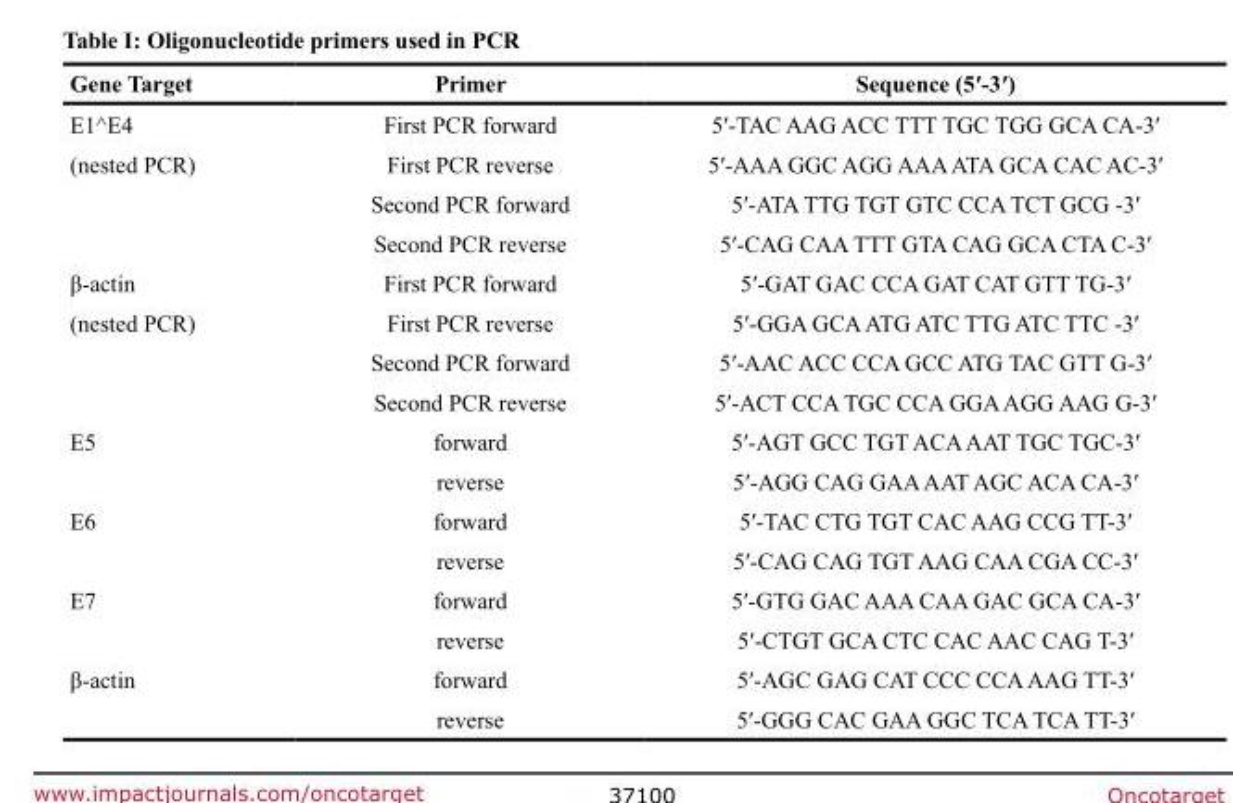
<table><thead><tr><td>Gene Target</td><td>Primer</td><td>Sequence (5′-3′)</td></tr></thead><tbody><tr><td>E1^E4</td><td>First PCR forward</td><td>5′-TAC AAG ACC TTT TGC TGG GCA CA-3′</td></tr><tr><td rowspan="3">(nested PCR)</td><td>First PCR reverse</td><td>5′-AAA GGC AGG AAA ATA GCA CAC AC-3′</td></tr><tr><td>Second PCR forward</td><td>5′-ATA TTG TGT GTC CCA TCT GCG -3′</td></tr><tr><td>Second PCR reverse</td><td>5′-CAG CAA TTT GTA CAG GCA CTA C-3′</td></tr><tr><td>β-actin</td><td>First PCR forward</td><td>5′-GAT GAC CCA GAT CAT GTT TG-3′</td></tr><tr><td rowspan="3">(nested PCR)</td><td>First PCR reverse</td><td>5′-GGA GCA ATG ATC TTG ATC TTC -3′</td></tr><tr><td>Second PCR forward</td><td>5′-AAC ACC CCA GCC ATG TAC GTT G-3′</td></tr><tr><td>Second PCR reverse</td><td>5′-ACT CCA TGC CCA GGA AGG AAG G-3′</td></tr><tr><td rowspan="2">E5</td><td>forward</td><td>5′-AGT GCC TGT ACA AAT TGC TGC-3′</td></tr><tr><td>reverse</td><td>5′-AGG CAG GAA AAT AGC ACA CA-3′</td></tr><tr><td rowspan="2">E6</td><td>forward</td><td>5′-TAC CTG TGT CAC AAG CCG TT-3′</td></tr><tr><td>reverse</td><td>5′-CAG CAG TGT AAG CAA CGA CC-3′</td></tr><tr><td rowspan="2">E7</td><td>forward</td><td>5′-GTG GAC AAA CAA GAC GCA CA-3′</td></tr><tr><td>reverse</td><td>5′-CTGT GCA CTC CAC AAC CAG T-3′</td></tr><tr><td rowspan="2">β-actin</td><td>forward</td><td>5′-AGC GAG CAT CCC CCA AAG TT-3′</td></tr><tr><td>reverse</td><td>5′-GGG CAC GAA GGC TCA TCA TT-3′</td></tr></tbody></table>